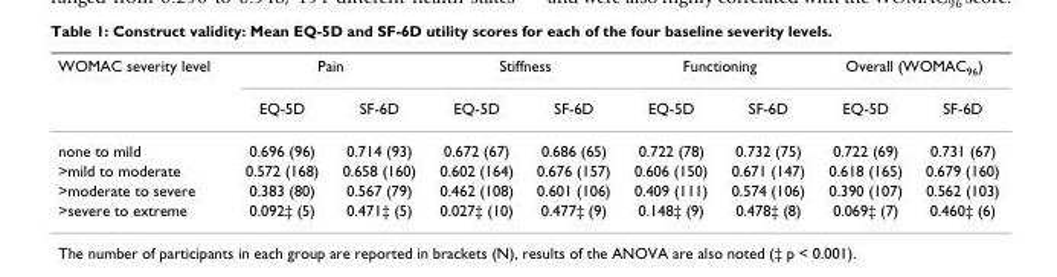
<table><thead><tr><td rowspan="2">WOMAC severity level</td><td colspan="2">Pain</td><td colspan="2">Stiffness</td><td colspan="2">Functioning</td><td colspan="2">Overall (WOMAC<sub>96</sub>)</td></tr><tr><td>EQ-5D</td><td>SF-6D</td><td>EQ-5D</td><td>SF-6D</td><td>EQ-5D</td><td>SF-6D</td><td>EQ-5D</td><td>SF-6D</td></tr></thead><tbody><tr><td>none to mild</td><td>0.696 (96)</td><td>0.714 (93)</td><td>0.672 (67)</td><td>0.686 (65)</td><td>0.722 (78)</td><td>0.732 (75)</td><td>0.722 (69)</td><td>0.731 (67)</td></tr><tr><td>&gt;mild to moderate</td><td>0.572 (168)</td><td>0.658 (160)</td><td>0.602 (164)</td><td>0.676 (157)</td><td>0.606 (150)</td><td>0.671 (147)</td><td>0.618 (165)</td><td>0.679 (160)</td></tr><tr><td>&gt;moderate to severe</td><td>0.383 (80)</td><td>0.567 (79)</td><td>0.462 (108)</td><td>0.601 (106)</td><td>0.409 (111)</td><td>0.574 (106)</td><td>0.390 (107)</td><td>0.562 (103)</td></tr><tr><td>&gt;severe to extreme</td><td>0.092‡ (5)</td><td>0.471‡ (5)</td><td>0.027‡ (10)</td><td>0.477‡ (9)</td><td>0.148‡ (9)</td><td>0.478‡ (8)</td><td>0.069‡ (7)</td><td>0.460‡ (6)</td></tr></tbody></table>